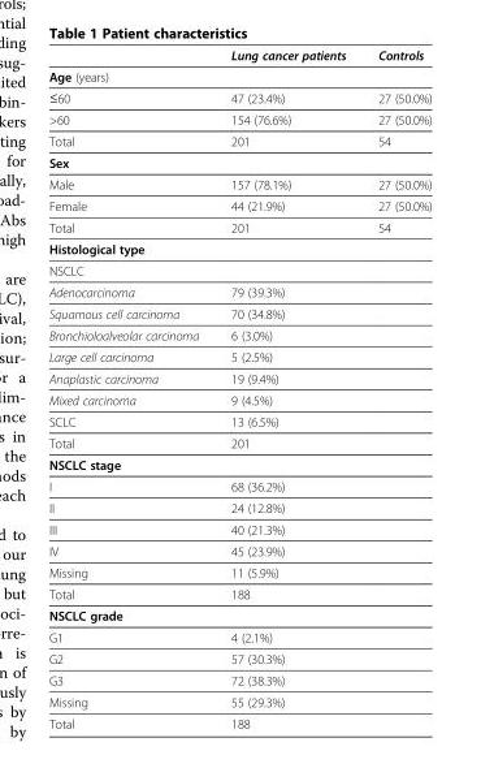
<table><thead><tr><td></td><td>Lung cancer patients</td><td>Controls</td></tr></thead><tbody><tr><td colspan="3">Age (years)</td></tr><tr><td>≤60</td><td>47 (23.4%)</td><td>27 (50.0%)</td></tr><tr><td>&gt;60</td><td>154 (76.6%)</td><td>27 (50.0%)</td></tr><tr><td>Total</td><td>201</td><td>54</td></tr><tr><td colspan="3">Sex</td></tr><tr><td>Male</td><td>157 (78.1%)</td><td>27 (50.0%)</td></tr><tr><td>Female</td><td>44 (21.9%)</td><td>27 (50.0%)</td></tr><tr><td>Total</td><td>201</td><td>54</td></tr><tr><td colspan="3">Histological type</td></tr><tr><td colspan="3">NSCLC</td></tr><tr><td>Adenocarcinoma</td><td>79 (39.3%)</td><td></td></tr><tr><td>Squamous cell carcinoma</td><td>70 (34.8%)</td><td></td></tr><tr><td>Bronchioloalveolar carcinoma</td><td>6 (3.0%)</td><td></td></tr><tr><td>Large cell carcinoma</td><td>5 (2.5%)</td><td></td></tr><tr><td>Anaplastic carcinoma</td><td>19 (9.4%)</td><td></td></tr><tr><td>Mixed carcinoma</td><td>9 (4.5%)</td><td></td></tr><tr><td>SCLC</td><td>13 (6.5%)</td><td></td></tr><tr><td>Total</td><td>201</td><td></td></tr><tr><td colspan="3">NSCLC stage</td></tr><tr><td>I</td><td>68 (36.2%)</td><td></td></tr><tr><td>II</td><td>24 (12.8%)</td><td></td></tr><tr><td>III</td><td>40 (21.3%)</td><td></td></tr><tr><td>IV</td><td>45 (23.9%)</td><td></td></tr><tr><td>Missing</td><td>11 (5.9%)</td><td></td></tr><tr><td>Total</td><td>188</td><td></td></tr><tr><td colspan="3">NSCLC grade</td></tr><tr><td>G1</td><td>4 (2.1%)</td><td></td></tr><tr><td>G2</td><td>57 (30.3%)</td><td></td></tr><tr><td>G3</td><td>72 (38.3%)</td><td></td></tr><tr><td>Missing</td><td>55 (29.3%)</td><td></td></tr><tr><td>Total</td><td>188</td><td></td></tr></tbody></table>